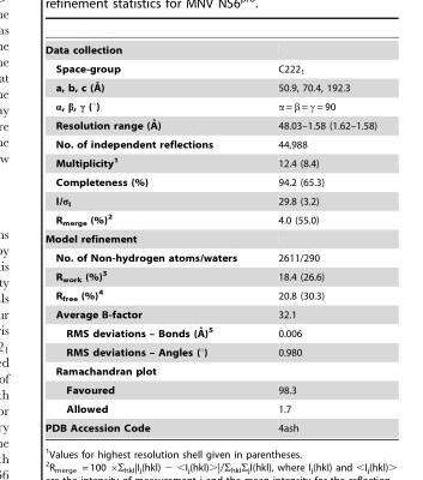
<table><tbody><tr><td colspan="2">Data collection</td></tr><tr><td>Space-group</td><td>C222<sub>1</sub></td></tr><tr><td>a, b, c (A˚ )</td><td>50.9, 70.4, 192.3</td></tr><tr><td>α, β, γ (°)</td><td>α = β = γ = 90</td></tr><tr><td>Resolution range (A˚ )</td><td>48.03–1.58 (1.62–1.58)</td></tr><tr><td>No. of independent reflections</td><td>44,988</td></tr><tr><td>Multiplicity1</td><td>12.4 (8.4)</td></tr><tr><td>Completeness (%)</td><td>94.2 (65.3)</td></tr><tr><td>I/σ<sub>I</sub></td><td>29.8 (3.2)</td></tr><tr><td>R<sub>merge</sub> (%)2</td><td>4.0 (55.0)</td></tr><tr><td colspan="2">Model refinement</td></tr><tr><td>No. of Non-hydrogen atoms/waters</td><td>2611/290</td></tr><tr><td>R<sub>work</sub> (%)3</td><td>18.4 (26.6)</td></tr><tr><td>R<sub>free</sub> (%)4</td><td>20.8 (30.3)</td></tr><tr><td>Average B-factor</td><td>32.1</td></tr><tr><td>RMS deviations – Bonds (A˚ )5</td><td>0.006</td></tr><tr><td>RMS deviations – Angles (°)</td><td>0.980</td></tr><tr><td colspan="2">Ramachandran plot</td></tr><tr><td>Favoured</td><td>98.3</td></tr><tr><td>Allowed</td><td>1.7</td></tr><tr><td>PDB Accession Code</td><td>4ash</td></tr></tbody></table>